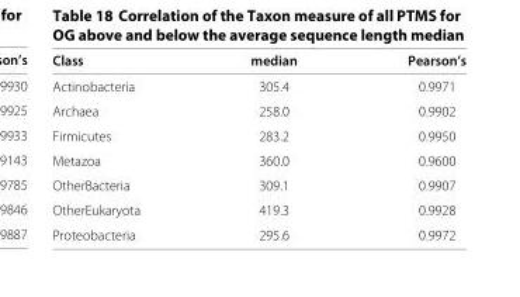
<table><thead><tr><td>Class</td><td>median</td><td>Pearson’s</td></tr></thead><tbody><tr><td>Actinobacteria</td><td>305.4</td><td>0.9971</td></tr><tr><td>Archaea</td><td>258.0</td><td>0.9902</td></tr><tr><td>Firmicutes</td><td>283.2</td><td>0.9950</td></tr><tr><td>Metazoa</td><td>360.0</td><td>0.9600</td></tr><tr><td>OtherBacteria</td><td>309.1</td><td>0.9907</td></tr><tr><td>OtherEukaryota</td><td>419.3</td><td>0.9928</td></tr><tr><td>Proteobacteria</td><td>295.6</td><td>0.9972</td></tr></tbody></table>